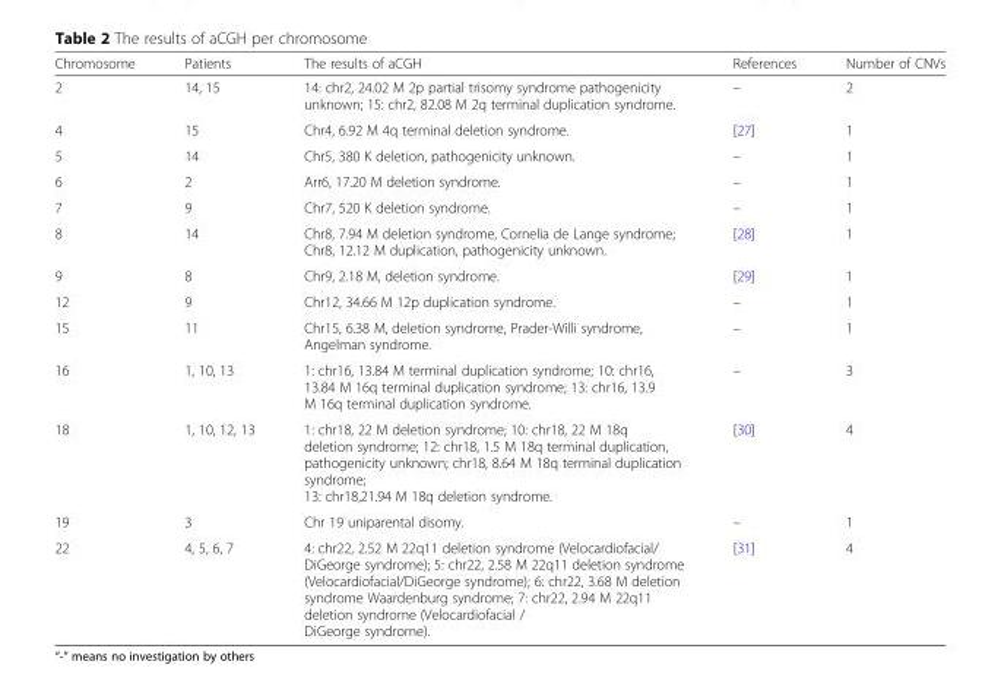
<table><thead><tr><td>Chromosome</td><td>Patients</td><td>The results of aCGH</td><td>References</td><td>Number of CNVs</td></tr></thead><tbody><tr><td>2</td><td>14, 15</td><td>14: chr2, 24.02 M 2p partial trisomy syndrome pathogenicity unknown; 15: chr2, 82.08 M 2q terminal duplication syndrome.</td><td>–</td><td>2</td></tr><tr><td>4</td><td>15</td><td>Chr4, 6.92 M 4q terminal deletion syndrome.</td><td>[27]</td><td>1</td></tr><tr><td>5</td><td>14</td><td>Chr5, 380 K deletion, pathogenicity unknown.</td><td>–</td><td>1</td></tr><tr><td>6</td><td>2</td><td>Arr6, 17.20 M deletion syndrome.</td><td>–</td><td>1</td></tr><tr><td>7</td><td>9</td><td>Chr7, 520 K deletion syndrome.</td><td>–</td><td>1</td></tr><tr><td>8</td><td>14</td><td>Chr8, 7.94 M deletion syndrome, Cornelia de Lange syndrome; Chr8, 12.12 M duplication, pathogenicity unknown.</td><td>[28]</td><td>1</td></tr><tr><td>9</td><td>8</td><td>Chr9, 2.18 M, deletion syndrome.</td><td>[29]</td><td>1</td></tr><tr><td>12</td><td>9</td><td>Chr12, 34.66 M 12p duplication syndrome.</td><td>–</td><td>1</td></tr><tr><td>15</td><td>11</td><td>Chr15, 6.38 M, deletion syndrome, Prader-Willi syndrome, Angelman syndrome.</td><td>–</td><td>1</td></tr><tr><td>16</td><td>1, 10, 13</td><td>1: chr16, 13.84 M terminal duplication syndrome; 10: chr16, 13.84 M 16q terminal duplication syndrome; 13: chr16, 13.9 M 16q terminal duplication syndrome.</td><td>–</td><td>3</td></tr><tr><td>18</td><td>1, 10, 12, 13</td><td>1: chr18, 22 M deletion syndrome; 10: chr18, 22 M 18q deletion syndrome; 12: chr18, 1.5 M 18q terminal duplication, pathogenicity unknown; chr18, 8.64 M 18q terminal duplication syndrome; 13: chr18,21.94 M 18q deletion syndrome.</td><td>[30]</td><td>4</td></tr><tr><td>19</td><td>3</td><td>Chr 19 uniparental disomy.</td><td>–</td><td>1</td></tr><tr><td>22</td><td>4, 5, 6, 7</td><td>4: chr22, 2.52 M 22q11 deletion syndrome (Velocardiofacial/ DiGeorge syndrome); 5: chr22, 2.58 M 22q11 deletion syndrome (Velocardiofacial/DiGeorge syndrome); 6: chr22, 3.68 M deletion syndrome Waardenburg syndrome; 7: chr22, 2.94 M 22q11 deletion syndrome (Velocardiofacial / DiGeorge syndrome).</td><td>[31]</td><td>4</td></tr></tbody></table>